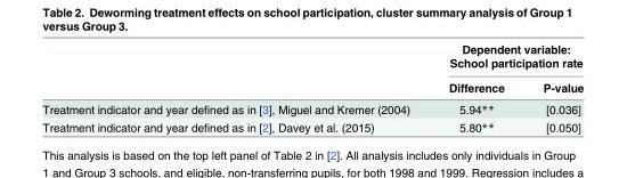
<table><thead><tr><td rowspan="2"></td><td colspan="2">Dependent variable: School participation rate</td></tr><tr><td>Difference</td><td>P-value</td></tr></thead><tbody><tr><td>Treatment indicator and year defined as in [3], Miguel and Kremer (2004)</td><td>5.94**</td><td>[0.036]</td></tr><tr><td>Treatment indicator and year defined as in [2], Davey et al. (2015)</td><td>5.80**</td><td>[0.050]</td></tr></tbody></table>